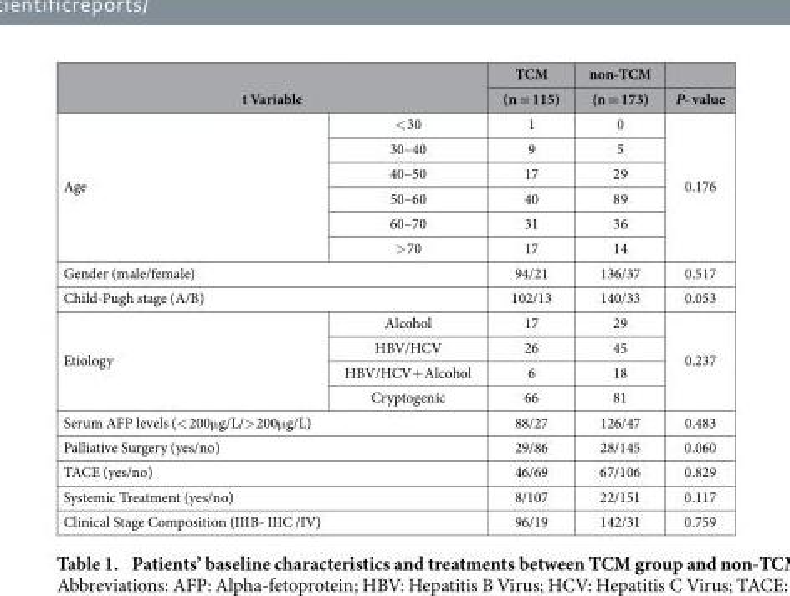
<table><thead><tr><td></td><td></td><td rowspan="2">TCM (n = 115)</td><td rowspan="2">non-TCM (n = 173)</td><td rowspan="2">P- value</td></tr><tr><td colspan="2">t Variable</td></tr></thead><tbody><tr><td rowspan="6">Age</td><td>&lt; 30</td><td>1</td><td>0</td><td rowspan="6">0.176</td></tr><tr><td>30–40</td><td>9</td><td>5</td></tr><tr><td>40–50</td><td>17</td><td>29</td></tr><tr><td>50–60</td><td>40</td><td>89</td></tr><tr><td>60–70</td><td>31</td><td>36</td></tr><tr><td>&gt; 70</td><td>17</td><td>14</td></tr><tr><td colspan="2">Gender (male/female)</td><td>94/21</td><td>136/37</td><td>0.517</td></tr><tr><td colspan="2">Child-Pugh stage (A/B)</td><td>102/13</td><td>140/33</td><td>0.053</td></tr><tr><td rowspan="4">Etiology</td><td>Alcohol</td><td>17</td><td>29</td><td rowspan="4">0.237</td></tr><tr><td>HBV/HCV</td><td>26</td><td>45</td></tr><tr><td>HBV/HCV+ Alcohol</td><td>6</td><td>18</td></tr><tr><td>Cryptogenic</td><td>66</td><td>81</td></tr><tr><td colspan="2">Serum AFP levels (&lt; 200μ g/L/&gt; 200μ g/L)</td><td>88/27</td><td>126/47</td><td>0.483</td></tr><tr><td colspan="2">Palliative Surgery (yes/no)</td><td>29/86</td><td>28/145</td><td>0.060</td></tr><tr><td colspan="2">TACE (yes/no)</td><td>46/69</td><td>67/106</td><td>0.829</td></tr><tr><td colspan="2">Systemic Treatment (yes/no)</td><td>8/107</td><td>22/151</td><td>0.117</td></tr><tr><td colspan="2">Clinical Stage Composition (IIIB- IIIC /IV)</td><td>96/19</td><td>142/31</td><td>0.759</td></tr></tbody></table>